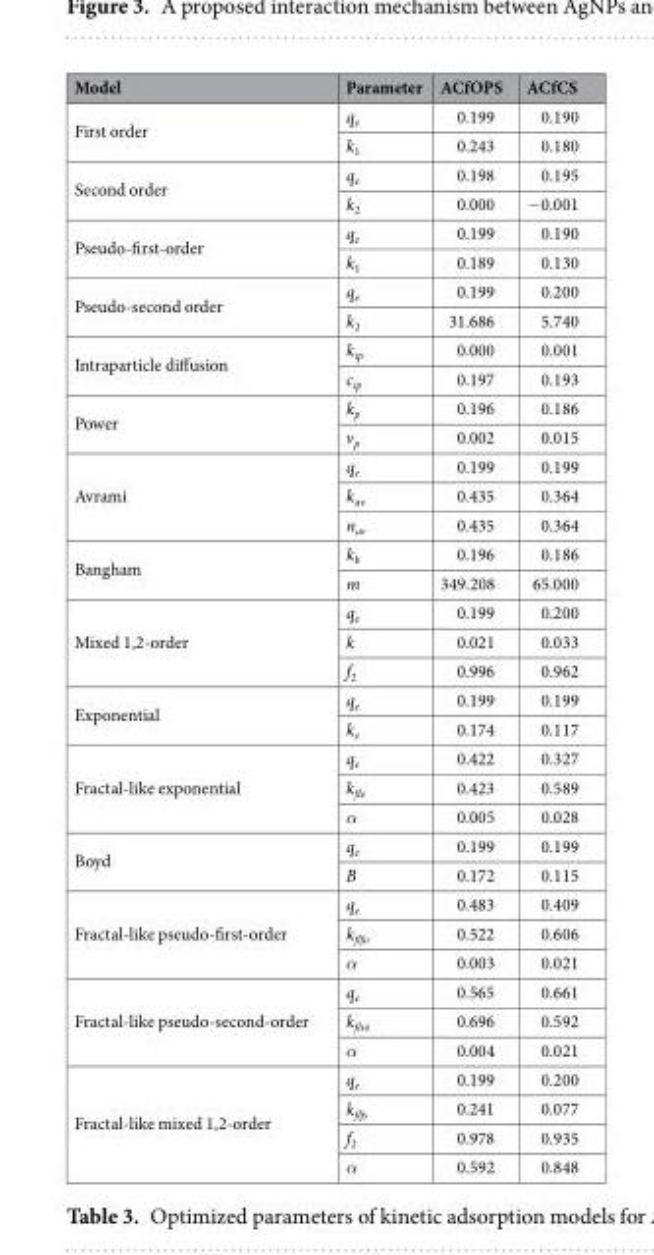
<table><thead><tr><td>Model</td><td>Parameter</td><td>ACfOPS</td><td>ACfCS</td></tr></thead><tbody><tr><td rowspan="2">First order</td><td>q<sub>e</sub></td><td>0.199</td><td>0.190</td></tr><tr><td>k<sub>1</sub></td><td>0.243</td><td>0.180</td></tr><tr><td rowspan="2">Second order</td><td>q<sub>e</sub></td><td>0.198</td><td>0.195</td></tr><tr><td>k<sub>2</sub></td><td>0.000</td><td>−0.001</td></tr><tr><td rowspan="2">Pseudo-first-order</td><td>q<sub>e</sub></td><td>0.199</td><td>0.190</td></tr><tr><td>k<sub>1</sub></td><td>0.189</td><td>0.130</td></tr><tr><td rowspan="2">Pseudo-second order</td><td>q<sub>e</sub></td><td>0.199</td><td>0.200</td></tr><tr><td>k<sub>2</sub></td><td>31.686</td><td>5.740</td></tr><tr><td rowspan="2">Intraparticle diffusion</td><td>k<sub>ip</sub></td><td>0.000</td><td>0.001</td></tr><tr><td>c<sub>ip</sub></td><td>0.197</td><td>0.193</td></tr><tr><td rowspan="2">Power</td><td>k<sub>p</sub></td><td>0.196</td><td>0.186</td></tr><tr><td>v<sub>p</sub></td><td>0.002</td><td>0.015</td></tr><tr><td rowspan="3">Avrami</td><td>q<sub>e</sub></td><td>0.199</td><td>0.199</td></tr><tr><td>k<sub>av</sub></td><td>0.435</td><td>0.364</td></tr><tr><td>n<sub>av</sub></td><td>0.435</td><td>0.364</td></tr><tr><td rowspan="2">Bangham</td><td>k<sub>b</sub></td><td>0.196</td><td>0.186</td></tr><tr><td>m</td><td>349.208</td><td>65.000</td></tr><tr><td rowspan="3">Mixed 1,2-order</td><td>q<sub>e</sub></td><td>0.199</td><td>0.200</td></tr><tr><td>k</td><td>0.021</td><td>0.033</td></tr><tr><td>f<sub>2</sub></td><td>0.996</td><td>0.962</td></tr><tr><td rowspan="2">Exponential</td><td>q<sub>e</sub></td><td>0.199</td><td>0.199</td></tr><tr><td>k<sub>e</sub></td><td>0.174</td><td>0.117</td></tr><tr><td rowspan="3">Fractal-like exponential</td><td>q<sub>e</sub></td><td>0.422</td><td>0.327</td></tr><tr><td>k<sub>fle</sub></td><td>0.423</td><td>0.589</td></tr><tr><td>α</td><td>0.005</td><td>0.028</td></tr><tr><td rowspan="2">Boyd</td><td>q<sub>e</sub></td><td>0.199</td><td>0.199</td></tr><tr><td>B</td><td>0.172</td><td>0.115</td></tr><tr><td rowspan="3">Fractal-like pseudo-first-order</td><td>q<sub>e</sub></td><td>0.483</td><td>0.409</td></tr><tr><td>k<sub>flfo</sub></td><td>0.522</td><td>0.606</td></tr><tr><td>α</td><td>0.003</td><td>0.021</td></tr><tr><td rowspan="3">Fractal-like pseudo-second-order</td><td>q<sub>e</sub></td><td>0.565</td><td>0.661</td></tr><tr><td>k<sub>flso</sub></td><td>0.696</td><td>0.592</td></tr><tr><td>α</td><td>0.004</td><td>0.021</td></tr><tr><td rowspan="4">Fractal-like mixed 1,2-order</td><td>q<sub>e</sub></td><td>0.199</td><td>0.200</td></tr><tr><td>k<sub>flfs</sub></td><td>0.241</td><td>0.077</td></tr><tr><td>f<sub>2</sub></td><td>0.978</td><td>0.935</td></tr><tr><td>α</td><td>0.592</td><td>0.848</td></tr></tbody></table>